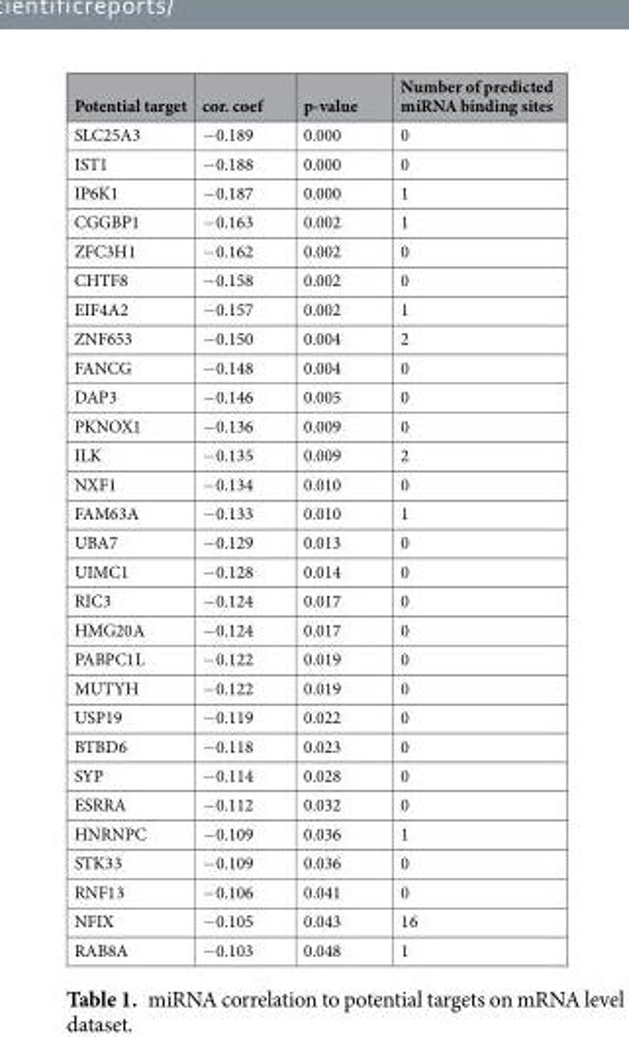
<table><thead><tr><td>Potential target</td><td>cor. coef</td><td>p-value</td><td>Number of predicted miRNA binding sites</td></tr></thead><tbody><tr><td>SLC25A3</td><td>−0.189</td><td>0.000</td><td>0</td></tr><tr><td>IST1</td><td>−0.188</td><td>0.000</td><td>0</td></tr><tr><td>IP6K1</td><td>−0.187</td><td>0.000</td><td>1</td></tr><tr><td>CGGBP1</td><td>−0.163</td><td>0.002</td><td>1</td></tr><tr><td>ZFC3H1</td><td>−0.162</td><td>0.002</td><td>0</td></tr><tr><td>CHTF8</td><td>−0.158</td><td>0.002</td><td>0</td></tr><tr><td>EIF4A2</td><td>−0.157</td><td>0.002</td><td>1</td></tr><tr><td>ZNF653</td><td>−0.150</td><td>0.004</td><td>2</td></tr><tr><td>FANCG</td><td>−0.148</td><td>0.004</td><td>0</td></tr><tr><td>DAP3</td><td>−0.146</td><td>0.005</td><td>0</td></tr><tr><td>PKNOX1</td><td>−0.136</td><td>0.009</td><td>0</td></tr><tr><td>ILK</td><td>−0.135</td><td>0.009</td><td>2</td></tr><tr><td>NXF1</td><td>−0.134</td><td>0.010</td><td>0</td></tr><tr><td>FAM63A</td><td>−0.133</td><td>0.010</td><td>1</td></tr><tr><td>UBA7</td><td>−0.129</td><td>0.013</td><td>0</td></tr><tr><td>UIMC1</td><td>−0.128</td><td>0.014</td><td>0</td></tr><tr><td>RIC3</td><td>−0.124</td><td>0.017</td><td>0</td></tr><tr><td>HMG20A</td><td>−0.124</td><td>0.017</td><td>0</td></tr><tr><td>PABPC1L</td><td>−0.122</td><td>0.019</td><td>0</td></tr><tr><td>MUTYH</td><td>−0.122</td><td>0.019</td><td>0</td></tr><tr><td>USP19</td><td>−0.119</td><td>0.022</td><td>0</td></tr><tr><td>BTBD6</td><td>−0.118</td><td>0.023</td><td>0</td></tr><tr><td>SYP</td><td>−0.114</td><td>0.028</td><td>0</td></tr><tr><td>ESRRA</td><td>−0.112</td><td>0.032</td><td>0</td></tr><tr><td>HNRNPC</td><td>−0.109</td><td>0.036</td><td>1</td></tr><tr><td>STK33</td><td>−0.109</td><td>0.036</td><td>0</td></tr><tr><td>RNF13</td><td>−0.106</td><td>0.041</td><td>0</td></tr><tr><td>NFIX</td><td>−0.105</td><td>0.043</td><td>16</td></tr><tr><td>RAB8A</td><td>−0.103</td><td>0.048</td><td>1</td></tr></tbody></table>